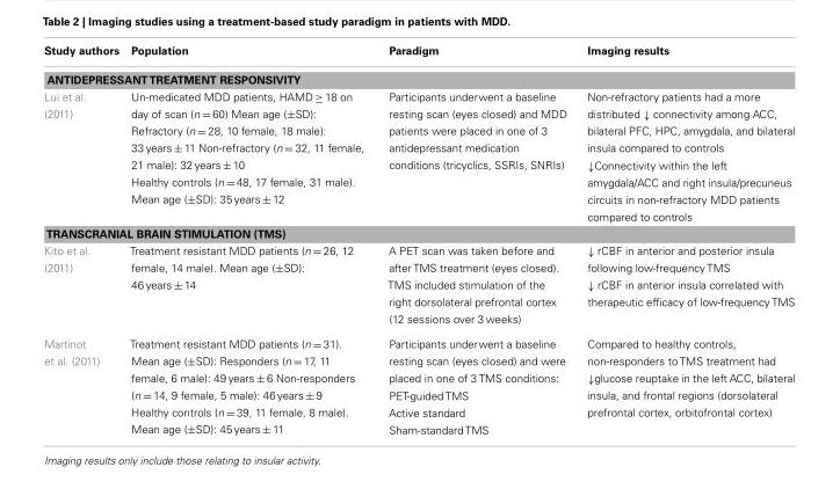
<table><thead><tr><td>Study authors</td><td>Population</td><td>Paradigm</td><td>Imaging results</td></tr></thead><tbody><tr><td colspan="4">ANTIDEPRESSANTTREATMENT RESPONSIVITY</td></tr><tr><td>Lui et al. (2011)</td><td>Un-medicated MDD patients, HAMD ≥ 18 on day of scan (n = 60) Mean age (±SD): Refractory (n = 28, 10 female, 18 male): 33 years ± 11 Non-refractory (n = 32, 11 female, 21 male): 32 years ± 10 Healthy controls (n = 48, 17 female, 31 male). Mean age (±SD): 35 years ± 12</td><td>Participants underwent a baseline resting scan (eyes closed) and MDD patients were placed in one of 3 antidepressant medication conditions (tricyclics, SSRIs, SNRIs)</td><td>Non-refractory patients had a more distributed ↓ connectivity among ACC, bilateral PFC, HPC, amygdala, and bilateral insula compared to controls ↓Connectivity within the left amygdala/ACC and right insula/precuneus circuits in non-refractory MDD patients compared to controls</td></tr><tr><td colspan="4">TRANSCRANIAL BRAIN STIMULATION (TMS)</td></tr><tr><td>Kito et al. (2011)</td><td>Treatment resistant MDD patients (n = 26, 12 female, 14 male). Mean age (±SD): 46 years ± 14</td><td>A PET scan was taken before and after TMS treatment (eyes closed). TMS included stimulation of the right dorsolateral prefrontal cortex (12 sessions over 3 weeks)</td><td>↓ rCBF in anterior and posterior insula following low-frequency TMS ↓ rCBF in anterior insula correlated with therapeutic efficacy of low-frequency TMS</td></tr><tr><td>Martinot et al. (2011)</td><td>Treatment resistant MDD patients (n = 31). Mean age (±SD): Responders (n = 17, 11 female, 6 male): 49 years ± 6 Non-responders (n = 14, 9 female, 5 male): 46 years ± 9 Healthy controls (n = 39, 11 female, 8 male). Mean age (±SD): 45 years ± 11</td><td>Participants underwent a baseline resting scan (eyes closed) and were placed in one of 3 TMS conditions: PET-guided TMS Active standard Sham-standard TMS</td><td>Compared to healthy controls, non-responders to TMS treatment had ↓glucose reuptake in the left ACC, bilateral insula, and frontal regions (dorsolateral prefrontal cortex, orbitofrontal cortex)</td></tr></tbody></table>